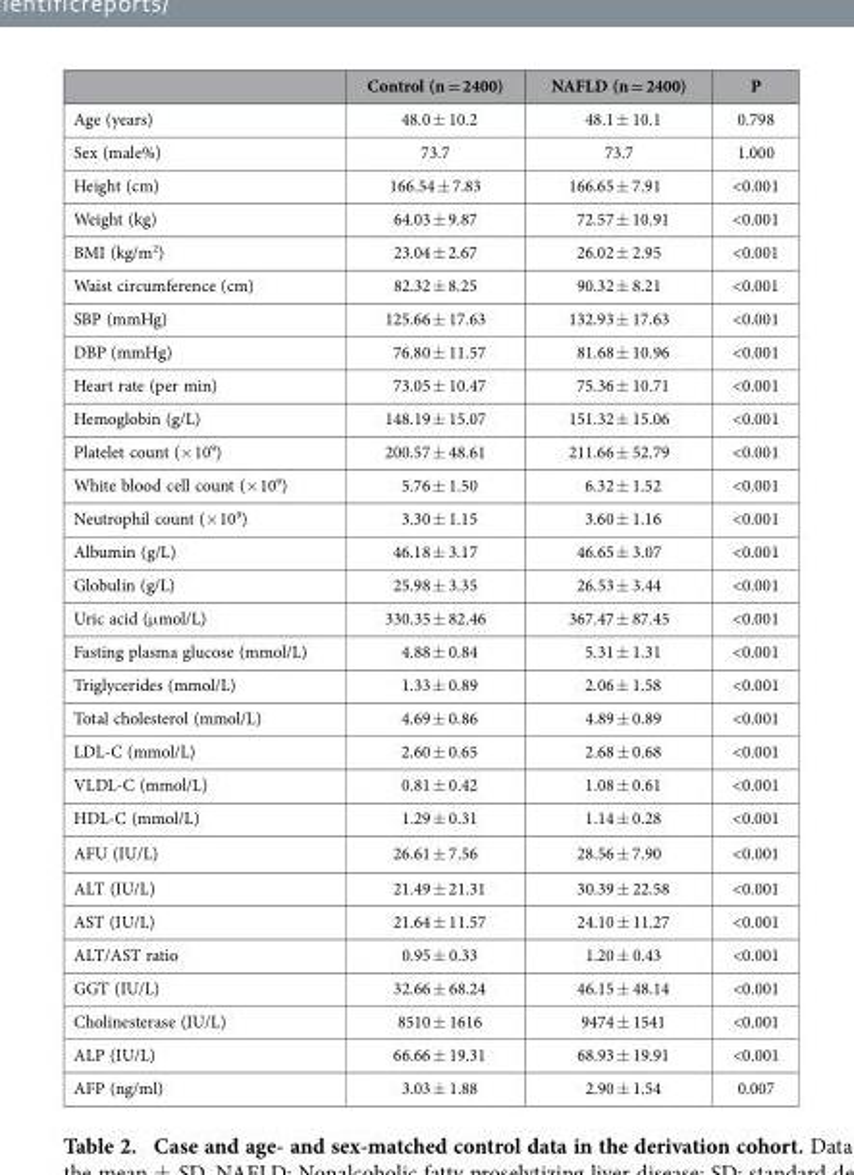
<table><thead><tr><td></td><td>Control (n = 2400)</td><td>NAFLD (n = 2400)</td><td>P</td></tr></thead><tbody><tr><td>Age (years)</td><td>48.0 ± 10.2</td><td>48.1 ± 10.1</td><td>0.798</td></tr><tr><td>Sex (male%)</td><td>73.7</td><td>73.7</td><td>1.000</td></tr><tr><td>Height (cm)</td><td>166.54 ± 7.83</td><td>166.65 ± 7.91</td><td>&lt;0.001</td></tr><tr><td>Weight (kg)</td><td>64.03 ± 9.87</td><td>72.57 ± 10.91</td><td>&lt;0.001</td></tr><tr><td>BMI (kg/m<sup>2</sup>)</td><td>23.04 ± 2.67</td><td>26.02 ± 2.95</td><td>&lt;0.001</td></tr><tr><td>Waist circumference (cm)</td><td>82.32 ± 8.25</td><td>90.32 ± 8.21</td><td>&lt;0.001</td></tr><tr><td>SBP (mmHg)</td><td>125.66 ± 17.63</td><td>132.93 ± 17.63</td><td>&lt;0.001</td></tr><tr><td>DBP (mmHg)</td><td>76.80 ± 11.57</td><td>81.68 ± 10.96</td><td>&lt;0.001</td></tr><tr><td>Heart rate (per min)</td><td>73.05 ± 10.47</td><td>75.36 ± 10.71</td><td>&lt;0.001</td></tr><tr><td>Hemoglobin (g/L)</td><td>148.19 ± 15.07</td><td>151.32 ± 15.06</td><td>&lt;0.001</td></tr><tr><td>Platelet count (× 10<sup>9</sup>)</td><td>200.57 ± 48.61</td><td>211.66 ± 52.79</td><td>&lt;0.001</td></tr><tr><td>White blood cell count (× 10<sup>9</sup>)</td><td>5.76 ± 1.50</td><td>6.32 ± 1.52</td><td>&lt;0.001</td></tr><tr><td>Neutrophil count (× 10<sup>9</sup>)</td><td>3.30 ± 1.15</td><td>3.60 ± 1.16</td><td>&lt;0.001</td></tr><tr><td>Albumin (g/L)</td><td>46.18 ± 3.17</td><td>46.65 ± 3.07</td><td>&lt;0.001</td></tr><tr><td>Globulin (g/L)</td><td>25.98 ± 3.35</td><td>26.53 ± 3.44</td><td>&lt;0.001</td></tr><tr><td>Uric acid (μ mol/L)</td><td>330.35 ± 82.46</td><td>367.47 ± 87.45</td><td>&lt;0.001</td></tr><tr><td>Fasting plasma glucose (mmol/L)</td><td>4.88 ± 0.84</td><td>5.31 ± 1.31</td><td>&lt;0.001</td></tr><tr><td>Triglycerides (mmol/L)</td><td>1.33 ± 0.89</td><td>2.06 ± 1.58</td><td>&lt;0.001</td></tr><tr><td>Total cholesterol (mmol/L)</td><td>4.69 ± 0.86</td><td>4.89 ± 0.89</td><td>&lt;0.001</td></tr><tr><td>LDL-C (mmol/L)</td><td>2.60 ± 0.65</td><td>2.68 ± 0.68</td><td>&lt;0.001</td></tr><tr><td>VLDL-C (mmol/L)</td><td>0.81 ± 0.42</td><td>1.08 ± 0.61</td><td>&lt;0.001</td></tr><tr><td>HDL-C (mmol/L)</td><td>1.29 ± 0.31</td><td>1.14 ± 0.28</td><td>&lt;0.001</td></tr><tr><td>AFU (IU/L)</td><td>26.61 ± 7.56</td><td>28.56 ± 7.90</td><td>&lt;0.001</td></tr><tr><td>ALT (IU/L)</td><td>21.49 ± 21.31</td><td>30.39 ± 22.58</td><td>&lt;0.001</td></tr><tr><td>AST (IU/L)</td><td>21.64 ± 11.57</td><td>24.10 ± 11.27</td><td>&lt;0.001</td></tr><tr><td>ALT/AST ratio</td><td>0.95 ± 0.33</td><td>1.20 ± 0.43</td><td>&lt;0.001</td></tr><tr><td>GGT (IU/L)</td><td>32.66 ± 68.24</td><td>46.15 ± 48.14</td><td>&lt;0.001</td></tr><tr><td>Cholinesterase (IU/L)</td><td>8510 ± 1616</td><td>9474 ± 1541</td><td>&lt;0.001</td></tr><tr><td>ALP (IU/L)</td><td>66.66 ± 19.31</td><td>68.93 ± 19.91</td><td>&lt;0.001</td></tr><tr><td>AFP (ng/ml)</td><td>3.03 ± 1.88</td><td>2.90 ± 1.54</td><td>0.007</td></tr></tbody></table>